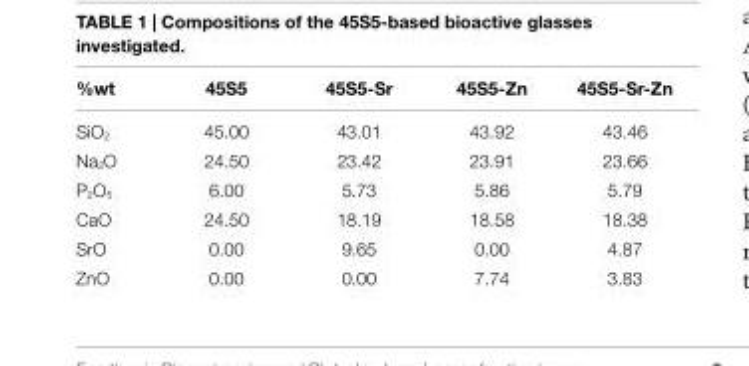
<table><thead><tr><td>%wt</td><td>45s5</td><td>45s5-sr</td><td>45s5-Zn</td><td>45s5-sr-Zn</td></tr></thead><tbody><tr><td>SiO<sub>2</sub></td><td>45.00</td><td>43.01</td><td>43.92</td><td>43.46</td></tr><tr><td>Na<sub>2</sub>O</td><td>24.50</td><td>23.42</td><td>23.91</td><td>23.66</td></tr><tr><td>P<sub>2</sub>O<sub>5</sub></td><td>6.00</td><td>5.73</td><td>5.86</td><td>5.79</td></tr><tr><td>CaO</td><td>24.50</td><td>18.19</td><td>18.58</td><td>18.38</td></tr><tr><td>SrO</td><td>0.00</td><td>9.65</td><td>0.00</td><td>4.87</td></tr><tr><td>ZnO</td><td>0.00</td><td>0.00</td><td>7.74</td><td>3.83</td></tr></tbody></table>